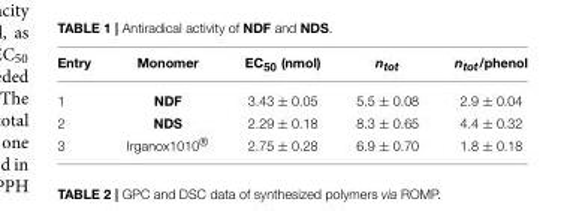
<table><thead><tr><td>Entry</td><td>Monomer</td><td>EC<sub>50</sub> (nmol)</td><td>n<sub>tot</sub></td><td>n<sub>tot</sub>/phenol</td></tr></thead><tbody><tr><td>1</td><td>NDF</td><td>3.43 ± 0.05</td><td>5.5 ± 0.08</td><td>2.9 ± 0.04</td></tr><tr><td>2</td><td>NDS</td><td>2.29 ± 0.18</td><td>8.3 ± 0.65</td><td>4.4 ± 0.32</td></tr><tr><td>3</td><td>Irganox1010®</td><td>2.75 ± 0.28</td><td>6.9 ± 0.70</td><td>1.8 ± 0.18</td></tr></tbody></table>